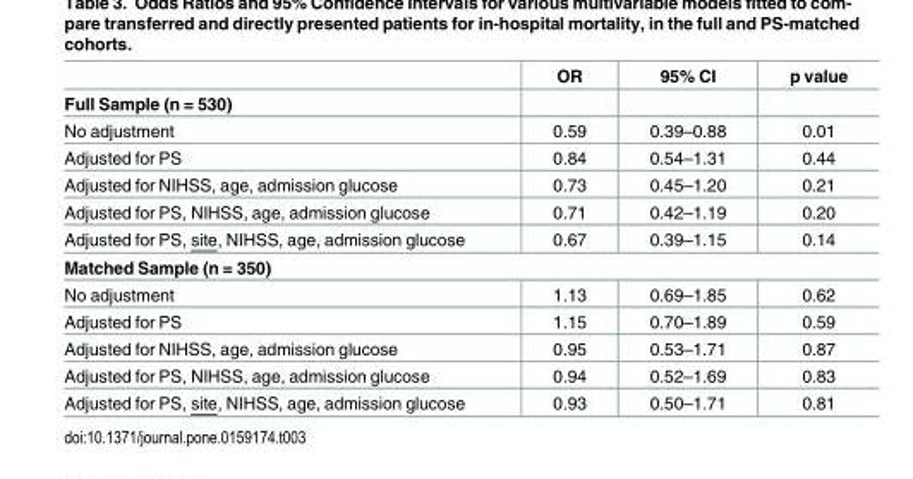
<table><thead><tr><td></td><td>OR</td><td>95% CI</td><td>p value</td></tr></thead><tbody><tr><td colspan="4">Full Sample (n = 530)</td></tr><tr><td>No adjustment</td><td>0.59</td><td>0.39–0.88</td><td>0.01</td></tr><tr><td>Adjusted for PS</td><td>0.84</td><td>0.54–1.31</td><td>0.44</td></tr><tr><td>Adjusted for NIHSS, age, admission glucose</td><td>0.73</td><td>0.45–1.20</td><td>0.21</td></tr><tr><td>Adjusted for PS, NIHSS, age, admission glucose</td><td>0.71</td><td>0.42–1.19</td><td>0.20</td></tr><tr><td>Adjusted for PS, site, NIHSS, age, admission glucose</td><td>0.67</td><td>0.39–1.15</td><td>0.14</td></tr><tr><td colspan="4">Matched Sample (n = 350)</td></tr><tr><td>No adjustment</td><td>1.13</td><td>0.69–1.85</td><td>0.62</td></tr><tr><td>Adjusted for PS</td><td>1.15</td><td>0.70–1.89</td><td>0.59</td></tr><tr><td>Adjusted for NIHSS, age, admission glucose</td><td>0.95</td><td>0.53–1.71</td><td>0.87</td></tr><tr><td>Adjusted for PS, NIHSS, age, admission glucose</td><td>0.94</td><td>0.52–1.69</td><td>0.83</td></tr><tr><td>Adjusted for PS, site, NIHSS, age, admission glucose</td><td>0.93</td><td>0.50–1.71</td><td>0.81</td></tr></tbody></table>